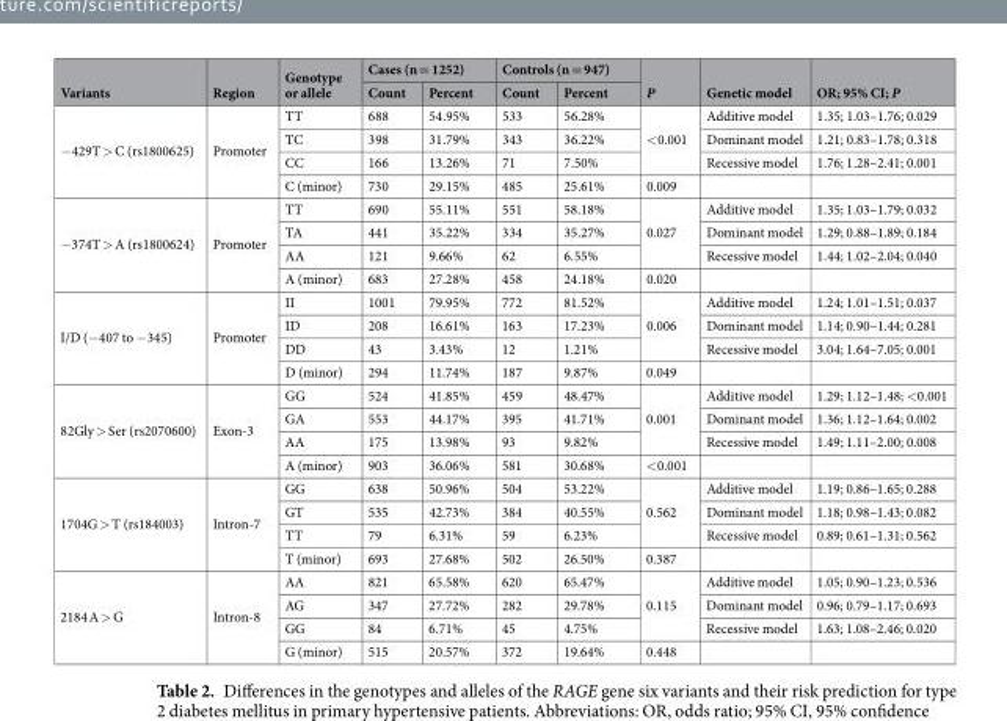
<table><thead><tr><td rowspan="2">Variants</td><td rowspan="2">Region</td><td rowspan="2">Genotype or allele</td><td colspan="2">Cases (n = 1252)</td><td colspan="2">Controls (n = 947)</td><td rowspan="2">P</td><td rowspan="2">Genetic model</td><td rowspan="2">OR; 95% CI; P</td></tr><tr><td>Count</td><td>Percent</td><td>Count</td><td>Percent</td></tr></thead><tbody><tr><td rowspan="4">−429T &gt; C (rs1800625)</td><td rowspan="4">Promoter</td><td>TT</td><td>688</td><td>54.95%</td><td>533</td><td>56.28%</td><td rowspan="3">&lt;0.001</td><td>Additive model</td><td>1.35; 1.03–1.76; 0.029</td></tr><tr><td>TC</td><td>398</td><td>31.79%</td><td>343</td><td>36.22%</td><td>Dominant model</td><td>1.21; 0.83–1.78; 0.318</td></tr><tr><td>CC</td><td>166</td><td>13.26%</td><td>71</td><td>7.50%</td><td>Recessive model</td><td>1.76; 1.28–2.41; 0.001</td></tr><tr><td>C (minor)</td><td>730</td><td>29.15%</td><td>485</td><td>25.61%</td><td>0.009</td><td></td><td></td></tr><tr><td rowspan="4">−374T &gt; A (rs1800624)</td><td rowspan="4">Promoter</td><td>TT</td><td>690</td><td>55.11%</td><td>551</td><td>58.18%</td><td rowspan="3">0.027</td><td>Additive model</td><td>1.35; 1.03–1.79; 0.032</td></tr><tr><td>TA</td><td>441</td><td>35.22%</td><td>334</td><td>35.27%</td><td>Dominant model</td><td>1.29; 0.88–1.89; 0.184</td></tr><tr><td>AA</td><td>121</td><td>9.66%</td><td>62</td><td>6.55%</td><td>Recessive model</td><td>1.44; 1.02–2.04; 0.040</td></tr><tr><td>A (minor)</td><td>683</td><td>27.28%</td><td>458</td><td>24.18%</td><td>0.020</td><td></td><td></td></tr><tr><td rowspan="4">I/D (−407 to −345)</td><td rowspan="4">Promoter</td><td>II</td><td>1001</td><td>79.95%</td><td>772</td><td>81.52%</td><td rowspan="3">0.006</td><td>Additive model</td><td>1.24; 1.01–1.51; 0.037</td></tr><tr><td>ID</td><td>208</td><td>16.61%</td><td>163</td><td>17.23%</td><td>Dominant model</td><td>1.14; 0.90–1.44; 0.281</td></tr><tr><td>DD</td><td>43</td><td>3.43%</td><td>12</td><td>1.21%</td><td>Recessive model</td><td>3.04; 1.64–7.05; 0.001</td></tr><tr><td>D (minor)</td><td>294</td><td>11.74%</td><td>187</td><td>9.87%</td><td>0.049</td><td></td><td></td></tr><tr><td rowspan="4">82Gly &gt; Ser (rs2070600)</td><td rowspan="4">Exon-3</td><td>GG</td><td>524</td><td>41.85%</td><td>459</td><td>48.47%</td><td rowspan="3">0.001</td><td>Additive model</td><td>1.29; 1.12–1.48; &lt;0.001</td></tr><tr><td>GA</td><td>553</td><td>44.17%</td><td>395</td><td>41.71%</td><td>Dominant model</td><td>1.36; 1.12–1.64; 0.002</td></tr><tr><td>AA</td><td>175</td><td>13.98%</td><td>93</td><td>9.82%</td><td>Recessive model</td><td>1.49; 1.11–2.00; 0.008</td></tr><tr><td>A (minor)</td><td>903</td><td>36.06%</td><td>581</td><td>30.68%</td><td>&lt;0.001</td><td></td><td></td></tr><tr><td rowspan="4">1704G &gt; T (rs184003)</td><td rowspan="4">Intron-7</td><td>GG</td><td>638</td><td>50.96%</td><td>504</td><td>53.22%</td><td rowspan="3">0.562</td><td>Additive model</td><td>1.19; 0.86–1.65; 0.288</td></tr><tr><td>GT</td><td>535</td><td>42.73%</td><td>384</td><td>40.55%</td><td>Dominant model</td><td>1.18; 0.98–1.43; 0.082</td></tr><tr><td>TT</td><td>79</td><td>6.31%</td><td>59</td><td>6.23%</td><td>Recessive model</td><td>0.89; 0.61–1.31; 0.562</td></tr><tr><td>T (minor)</td><td>693</td><td>27.68%</td><td>502</td><td>26.50%</td><td>0.387</td><td></td><td></td></tr><tr><td rowspan="4">2184 A &gt; G</td><td rowspan="4">Intron-8</td><td>AA</td><td>821</td><td>65.58%</td><td>620</td><td>65.47%</td><td rowspan="3">0.115</td><td>Additive model</td><td>1.05; 0.90–1.23; 0.536</td></tr><tr><td>AG</td><td>347</td><td>27.72%</td><td>282</td><td>29.78%</td><td>Dominant model</td><td>0.96; 0.79–1.17; 0.693</td></tr><tr><td>GG</td><td>84</td><td>6.71%</td><td>45</td><td>4.75%</td><td>Recessive model</td><td>1.63; 1.08–2.46; 0.020</td></tr><tr><td>G (minor)</td><td>515</td><td>20.57%</td><td>372</td><td>19.64%</td><td>0.448</td><td></td><td></td></tr></tbody></table>